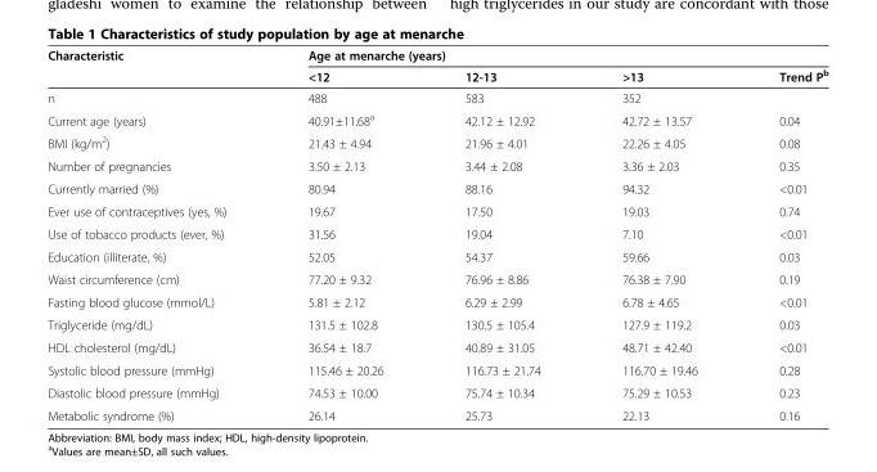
<table><thead><tr><td rowspan="2">Characteristic</td><td colspan="4">Age at menarche (years)</td></tr><tr><td>&lt;12</td><td>12-13</td><td>&gt;13</td><td>Trend P<sup>b</sup></td></tr></thead><tbody><tr><td>n</td><td>488</td><td>583</td><td>352</td><td></td></tr><tr><td>Current age (years)</td><td>40.91±11.68<sup>a</sup></td><td>42.12 ± 12.92</td><td>42.72 ± 13.57</td><td>0.04</td></tr><tr><td>BMI (kg/m<sup>2</sup>)</td><td>21.43 ± 4.94</td><td>21.96 ± 4.01</td><td>22.26 ± 4.05</td><td>0.08</td></tr><tr><td>Number of pregnancies</td><td>3.50 ± 2.13</td><td>3.44 ± 2.08</td><td>3.36 ± 2.03</td><td>0.35</td></tr><tr><td>Currently married (%)</td><td>80.94</td><td>88.16</td><td>94.32</td><td>&lt;0.01</td></tr><tr><td>Ever use of contraceptives (yes, %)</td><td>19.67</td><td>17.50</td><td>19.03</td><td>0.74</td></tr><tr><td>Use of tobacco products (ever, %)</td><td>31.56</td><td>19.04</td><td>7.10</td><td>&lt;0.01</td></tr><tr><td>Education (illiterate, %)</td><td>52.05</td><td>54.37</td><td>59.66</td><td>0.03</td></tr><tr><td>Waist circumference (cm)</td><td>77.20 ± 9.32</td><td>76.96 ± 8.86</td><td>76.38 ± 7.90</td><td>0.19</td></tr><tr><td>Fasting blood glucose (mmol/L)</td><td>5.81 ± 2.12</td><td>6.29 ± 2.99</td><td>6.78 ± 4.65</td><td>&lt;0.01</td></tr><tr><td>Triglyceride (mg/dL)</td><td>131.5 ± 102.8</td><td>130.5 ± 105.4</td><td>127.9 ± 119.2</td><td>0.03</td></tr><tr><td>HDL cholesterol (mg/dL)</td><td>36.54 ± 18.7</td><td>40.89 ± 31.05</td><td>48.71 ± 42.40</td><td>&lt;0.01</td></tr><tr><td>Systolic blood pressure (mmHg)</td><td>115.46 ± 20.26</td><td>116.73 ± 21.74</td><td>116.70 ± 19.46</td><td>0.28</td></tr><tr><td>Diastolic blood pressure (mmHg)</td><td>74.53 ± 10.00</td><td>75.74 ± 10.34</td><td>75.29 ± 10.53</td><td>0.23</td></tr><tr><td>Metabolic syndrome (%)</td><td>26.14</td><td>25.73</td><td>22.13</td><td>0.16</td></tr></tbody></table>